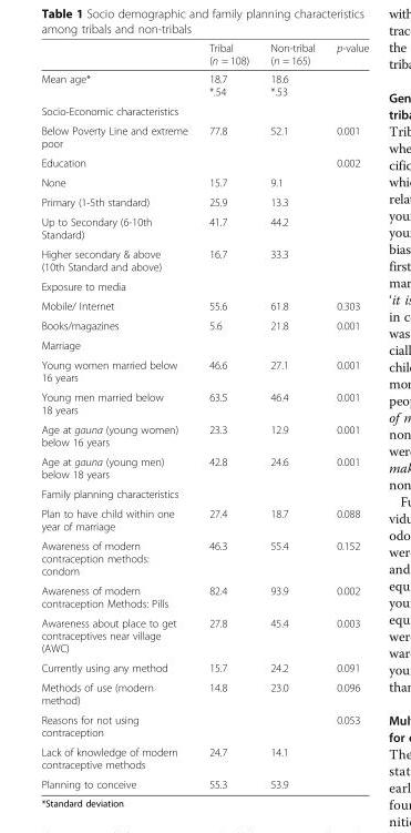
<table><thead><tr><td></td><td>Tribal (n = 108)</td><td>Non-tribal (n = 165)</td><td>p-value</td></tr></thead><tbody><tr><td>Mean age*</td><td>18.7 *.54</td><td>18.6 *.53</td><td></td></tr><tr><td colspan="4">Socio-Economic characteristics</td></tr><tr><td>Below Poverty Line and extreme poor</td><td>77.8</td><td>52.1</td><td>0.001</td></tr><tr><td>Education</td><td></td><td></td><td>0.002</td></tr><tr><td>None</td><td>15.7</td><td>9.1</td><td></td></tr><tr><td>Primary (1-5th standard)</td><td>25.9</td><td>13.3</td><td></td></tr><tr><td>Up to Secondary (6-10th Standard)</td><td>41.7</td><td>44.2</td><td></td></tr><tr><td>Higher secondary &amp; above (10th Standard and above)</td><td>16.7</td><td>33.3</td><td></td></tr><tr><td colspan="4">Exposure to media</td></tr><tr><td>Mobile/ Internet</td><td>55.6</td><td>61.8</td><td>0.303</td></tr><tr><td>Books/magazines</td><td>5.6</td><td>21.8</td><td>0.001</td></tr><tr><td colspan="4">Marriage</td></tr><tr><td>Young women married below 16 years</td><td>46.6</td><td>27.1</td><td>0.001</td></tr><tr><td>Young men married below 18 years</td><td>63.5</td><td>46.4</td><td>0.001</td></tr><tr><td>Age at gauna (young women) below 16 years</td><td>23.3</td><td>12.9</td><td>0.001</td></tr><tr><td>Age at gauna (young men) below 18 years</td><td>42.8</td><td>24.6</td><td>0.001</td></tr><tr><td colspan="4">Family planning characteristics</td></tr><tr><td>Plan to have child within one year of marriage</td><td>27.4</td><td>18.7</td><td>0.088</td></tr><tr><td>Awareness of modern contraception methods: condom</td><td>46.3</td><td>55.4</td><td>0.152</td></tr><tr><td>Awareness of modern contraception Methods: Pills</td><td>82.4</td><td>93.9</td><td>0.002</td></tr><tr><td>Awareness about place to get contraceptives near village (AWC)</td><td>27.8</td><td>45.4</td><td>0.003</td></tr><tr><td>Currently using any method</td><td>15.7</td><td>24.2</td><td>0.091</td></tr><tr><td>Methods of use (modern method)</td><td>14.8</td><td>23.0</td><td>0.096</td></tr><tr><td>Reasons for not using contraception</td><td></td><td></td><td>0.053</td></tr><tr><td>Lack of knowledge of modern contraceptive methods</td><td>24.7</td><td>14.1</td><td></td></tr><tr><td>Planning to conceive</td><td>55.3</td><td>53.9</td><td></td></tr></tbody></table>